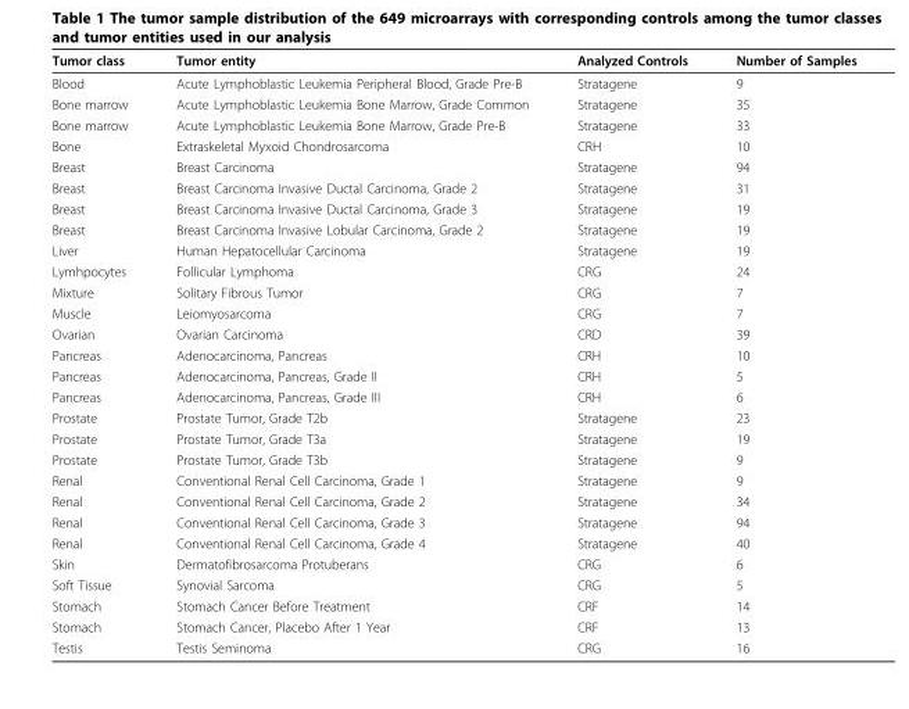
<table><thead><tr><td>Tumor class</td><td>Tumor entity</td><td>Analyzed Controls</td><td>Number of Samples</td></tr></thead><tbody><tr><td>Blood</td><td>Acute Lymphoblastic Leukemia Peripheral Blood, Grade Pre-B</td><td>Stratagene</td><td>9</td></tr><tr><td>Bone marrow</td><td>Acute Lymphoblastic Leukemia Bone Marrow, Grade Common</td><td>Stratagene</td><td>35</td></tr><tr><td>Bone marrow</td><td>Acute Lymphoblastic Leukemia Bone Marrow, Grade Pre-B</td><td>Stratagene</td><td>33</td></tr><tr><td>Bone</td><td>Extraskeletal Myxoid Chondrosarcoma</td><td>CRH</td><td>10</td></tr><tr><td>Breast</td><td>Breast Carcinoma</td><td>Stratagene</td><td>94</td></tr><tr><td>Breast</td><td>Breast Carcinoma Invasive Ductal Carcinoma, Grade 2</td><td>Stratagene</td><td>31</td></tr><tr><td>Breast</td><td>Breast Carcinoma Invasive Ductal Carcinoma, Grade 3</td><td>Stratagene</td><td>19</td></tr><tr><td>Breast</td><td>Breast Carcinoma Invasive Lobular Carcinoma, Grade 2</td><td>Stratagene</td><td>19</td></tr><tr><td>Liver</td><td>Human Hepatocellular Carcinoma</td><td>Stratagene</td><td>19</td></tr><tr><td>Lymhpocytes</td><td>Follicular Lymphoma</td><td>CRG</td><td>24</td></tr><tr><td>Mixture</td><td>Solitary Fibrous Tumor</td><td>CRG</td><td>7</td></tr><tr><td>Muscle</td><td>Leiomyosarcoma</td><td>CRG</td><td>7</td></tr><tr><td>Ovarian</td><td>Ovarian Carcinoma</td><td>CRD</td><td>39</td></tr><tr><td>Pancreas</td><td>Adenocarcinoma, Pancreas</td><td>CRH</td><td>10</td></tr><tr><td>Pancreas</td><td>Adenocarcinoma, Pancreas, Grade II</td><td>CRH</td><td>5</td></tr><tr><td>Pancreas</td><td>Adenocarcinoma, Pancreas, Grade III</td><td>CRH</td><td>6</td></tr><tr><td>Prostate</td><td>Prostate Tumor, Grade T2b</td><td>Stratagene</td><td>23</td></tr><tr><td>Prostate</td><td>Prostate Tumor, Grade T3a</td><td>Stratagene</td><td>19</td></tr><tr><td>Prostate</td><td>Prostate Tumor, Grade T3b</td><td>Stratagene</td><td>9</td></tr><tr><td>Renal</td><td>Conventional Renal Cell Carcinoma, Grade 1</td><td>Stratagene</td><td>9</td></tr><tr><td>Renal</td><td>Conventional Renal Cell Carcinoma, Grade 2</td><td>Stratagene</td><td>34</td></tr><tr><td>Renal</td><td>Conventional Renal Cell Carcinoma, Grade 3</td><td>Stratagene</td><td>94</td></tr><tr><td>Renal</td><td>Conventional Renal Cell Carcinoma, Grade 4</td><td>Stratagene</td><td>40</td></tr><tr><td>Skin</td><td>Dermatofibrosarcoma Protuberans</td><td>CRG</td><td>6</td></tr><tr><td>Soft Tissue</td><td>Synovial Sarcoma</td><td>CRG</td><td>5</td></tr><tr><td>Stomach</td><td>Stomach Cancer Before Treatment</td><td>CRF</td><td>14</td></tr><tr><td>Stomach</td><td>Stomach Cancer, Placebo After 1 Year</td><td>CRF</td><td>13</td></tr><tr><td>Testis</td><td>Testis Seminoma</td><td>CRG</td><td>16</td></tr></tbody></table>